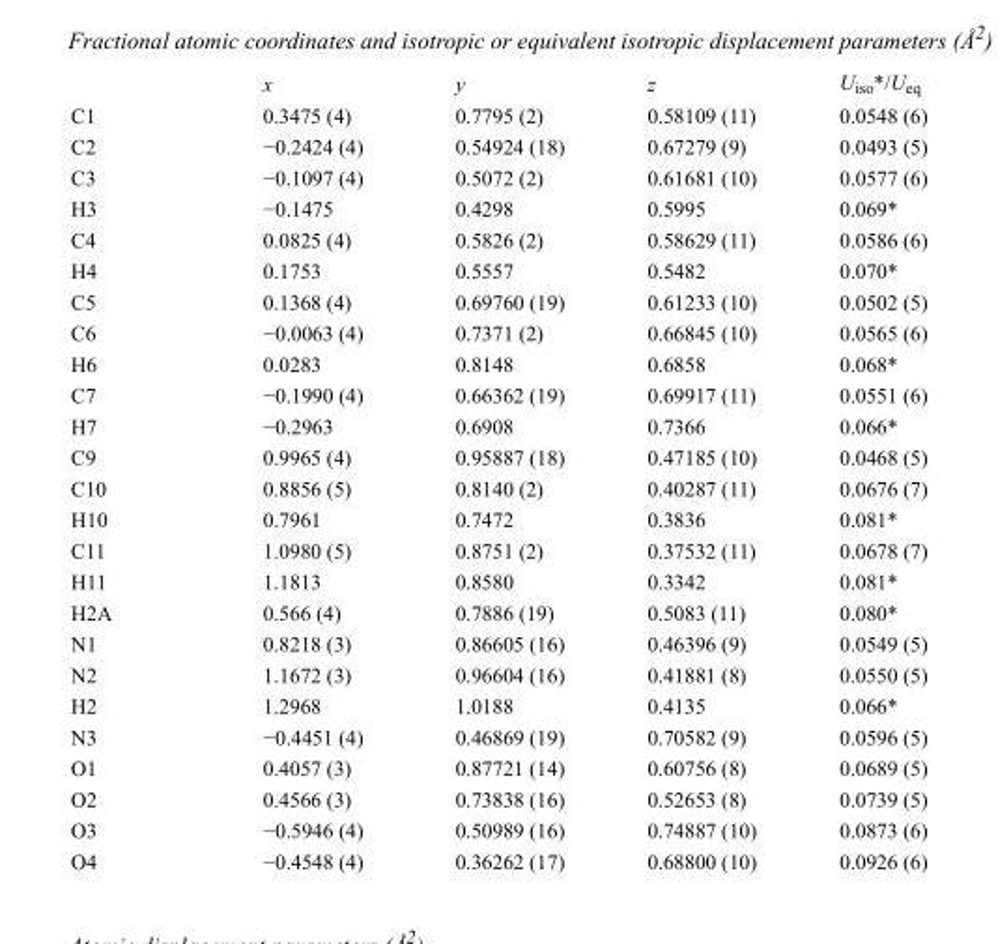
<table><thead><tr><td></td><td>x</td><td>y</td><td>z</td><td>U<sub>iso</sub>*/U<sub>eq</sub></td></tr></thead><tbody><tr><td>C1</td><td>0.3475 (4)</td><td>0.7795 (2)</td><td>0.58109 (11)</td><td>0.0548 (6)</td></tr><tr><td>C2</td><td>−0.2424 (4)</td><td>0.54924 (18)</td><td>0.67279 (9)</td><td>0.0493 (5)</td></tr><tr><td>C3</td><td>−0.1097 (4)</td><td>0.5072 (2)</td><td>0.61681 (10)</td><td>0.0577 (6)</td></tr><tr><td>H3</td><td>−0.1475</td><td>0.4298</td><td>0.5995</td><td>0.069*</td></tr><tr><td>C4</td><td>0.0825 (4)</td><td>0.5826 (2)</td><td>0.58629 (11)</td><td>0.0586 (6)</td></tr><tr><td>H4</td><td>0.1753</td><td>0.5557</td><td>0.5482</td><td>0.070*</td></tr><tr><td>C5</td><td>0.1368 (4)</td><td>0.69760 (19)</td><td>0.61233 (10)</td><td>0.0502 (5)</td></tr><tr><td>C6</td><td>−0.0063 (4)</td><td>0.7371 (2)</td><td>0.66845 (10)</td><td>0.0565 (6)</td></tr><tr><td>H6</td><td>0.0283</td><td>0.8148</td><td>0.6858</td><td>0.068*</td></tr><tr><td>C7</td><td>−0.1990 (4)</td><td>0.66362 (19)</td><td>0.69917 (11)</td><td>0.0551 (6)</td></tr><tr><td>H7</td><td>−0.2963</td><td>0.6908</td><td>0.7366</td><td>0.066*</td></tr><tr><td>C9</td><td>0.9965 (4)</td><td>0.95887 (18)</td><td>0.47185 (10)</td><td>0.0468 (5)</td></tr><tr><td>C10</td><td>0.8856 (5)</td><td>0.8140 (2)</td><td>0.40287 (11)</td><td>0.0676 (7)</td></tr><tr><td>H10</td><td>0.7961</td><td>0.7472</td><td>0.3836</td><td>0.081*</td></tr><tr><td>C11</td><td>1.0980 (5)</td><td>0.8751 (2)</td><td>0.37532 (11)</td><td>0.0678 (7)</td></tr><tr><td>H11</td><td>1.1813</td><td>0.8580</td><td>0.3342</td><td>0.081*</td></tr><tr><td>H2A</td><td>0.566 (4)</td><td>0.7886 (19)</td><td>0.5083 (11)</td><td>0.080*</td></tr><tr><td>N1</td><td>0.8218 (3)</td><td>0.86605 (16)</td><td>0.46396 (9)</td><td>0.0549 (5)</td></tr><tr><td>N2</td><td>1.1672 (3)</td><td>0.96604 (16)</td><td>0.41881 (8)</td><td>0.0550 (5)</td></tr><tr><td>H2</td><td>1.2968</td><td>1.0188</td><td>0.4135</td><td>0.066*</td></tr><tr><td>N3</td><td>−0.4451 (4)</td><td>0.46869 (19)</td><td>0.70582 (9)</td><td>0.0596 (5)</td></tr><tr><td>O1</td><td>0.4057 (3)</td><td>0.87721 (14)</td><td>0.60756 (8)</td><td>0.0689 (5)</td></tr><tr><td>O2</td><td>0.4566 (3)</td><td>0.73838 (16)</td><td>0.52653 (8)</td><td>0.0739 (5)</td></tr><tr><td>O3</td><td>−0.5946 (4)</td><td>0.50989 (16)</td><td>0.74887 (10)</td><td>0.0873 (6)</td></tr><tr><td>O4</td><td>−0.4548 (4)</td><td>0.36262 (17)</td><td>0.68800 (10)</td><td>0.0926 (6)</td></tr></tbody></table>